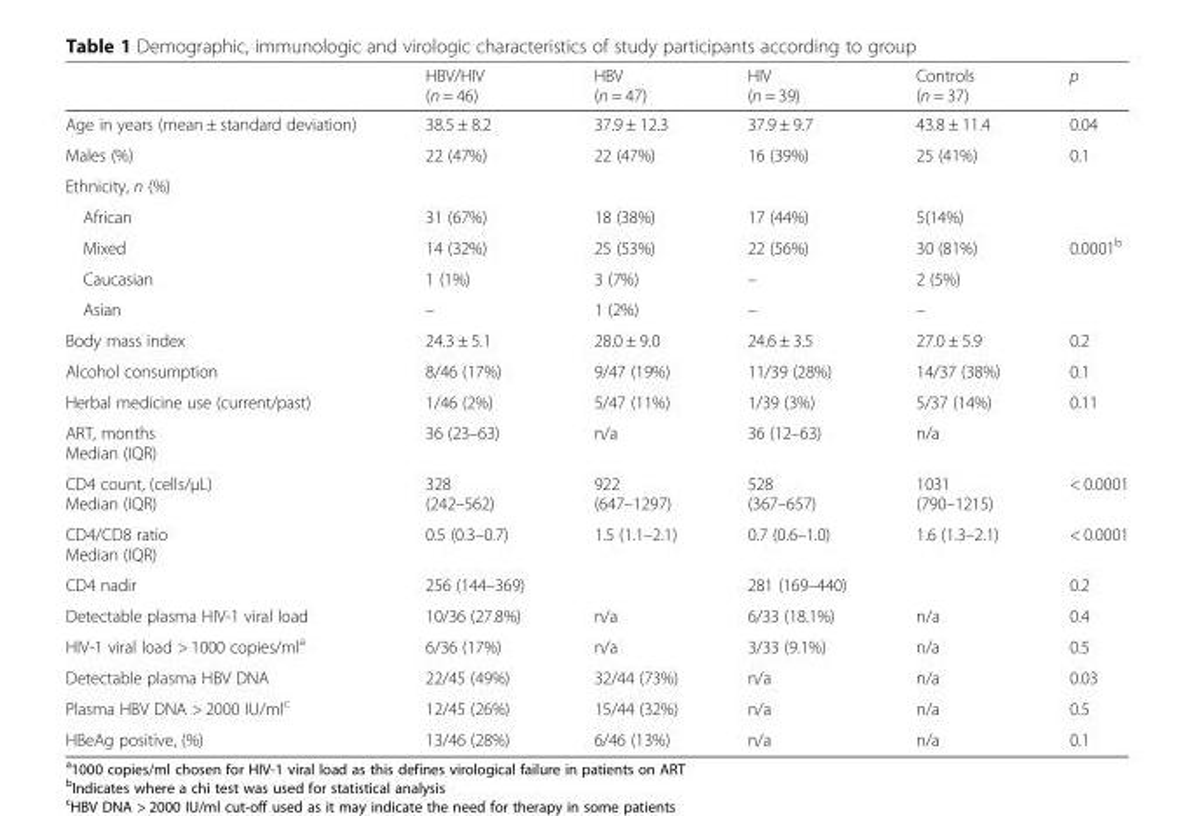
<table><thead><tr><td></td><td>HBV/HIV (n = 46)</td><td>HBV (n = 47)</td><td>HIV (n = 39)</td><td>Controls (n = 37)</td><td>p</td></tr></thead><tbody><tr><td>Age in years (mean ± standard deviation)</td><td>38.5 ± 8.2</td><td>37.9 ± 12.3</td><td>37.9 ± 9.7</td><td>43.8 ± 11.4</td><td>0.04</td></tr><tr><td>Males (%)</td><td>22 (47%)</td><td>22 (47%)</td><td>16 (39%)</td><td>25 (41%)</td><td>0.1</td></tr><tr><td colspan="6">Ethnicity, n (%)</td></tr><tr><td>African</td><td>31 (67%)</td><td>18 (38%)</td><td>17 (44%)</td><td>5(14%)</td><td></td></tr><tr><td>Mixed</td><td>14 (32%)</td><td>25 (53%)</td><td>22 (56%)</td><td>30 (81%)</td><td>0.0001<sup>b</sup></td></tr><tr><td>Caucasian</td><td>1 (1%)</td><td>3 (7%)</td><td>–</td><td>2 (5%)</td><td></td></tr><tr><td>Asian</td><td>–</td><td>1 (2%)</td><td>–</td><td>–</td><td></td></tr><tr><td>Body mass index</td><td>24.3 ± 5.1</td><td>28.0 ± 9.0</td><td>24.6 ± 3.5</td><td>27.0 ± 5.9</td><td>0.2</td></tr><tr><td>Alcohol consumption</td><td>8/46 (17%)</td><td>9/47 (19%)</td><td>11/39 (28%)</td><td>14/37 (38%)</td><td>0.1</td></tr><tr><td>Herbal medicine use (current/past)</td><td>1/46 (2%)</td><td>5/47 (11%)</td><td>1/39 (3%)</td><td>5/37 (14%)</td><td>0.11</td></tr><tr><td>ART, months Median (IQR)</td><td>36 (23–63)</td><td>n/a</td><td>36 (12–63)</td><td>n/a</td><td></td></tr><tr><td>CD4 count, (cells/μL) Median (IQR)</td><td>328 (242–562)</td><td>922 (647–1297)</td><td>528 (367–657)</td><td>1031 (790–1215)</td><td>&lt; 0.0001</td></tr><tr><td>CD4/CD8 ratio Median (IQR)</td><td>0.5 (0.3–0.7)</td><td>1.5 (1.1–2.1)</td><td>0.7 (0.6–1.0)</td><td>1.6 (1.3–2.1)</td><td>&lt; 0.0001</td></tr><tr><td>CD4 nadir</td><td>256 (144–369)</td><td></td><td>281 (169–440)</td><td></td><td>0.2</td></tr><tr><td>Detectable plasma HIV-1 viral load</td><td>10/36 (27.8%)</td><td>n/a</td><td>6/33 (18.1%)</td><td>n/a</td><td>0.4</td></tr><tr><td>HIV-1 viral load &gt; 1000 copies/ml<sup>a</sup></td><td>6/36 (17%)</td><td>n/a</td><td>3/33 (9.1%)</td><td>n/a</td><td>0.5</td></tr><tr><td>Detectable plasma HBV DNA</td><td>22/45 (49%)</td><td>32/44 (73%)</td><td>n/a</td><td>n/a</td><td>0.03</td></tr><tr><td>Plasma HBV DNA &gt; 2000 IU/ml<sup>c</sup></td><td>12/45 (26%)</td><td>15/44 (32%)</td><td>n/a</td><td>n/a</td><td>0.5</td></tr><tr><td>HBeAg positive, (%)</td><td>13/46 (28%)</td><td>6/46 (13%)</td><td>n/a</td><td>n/a</td><td>0.1</td></tr></tbody></table>